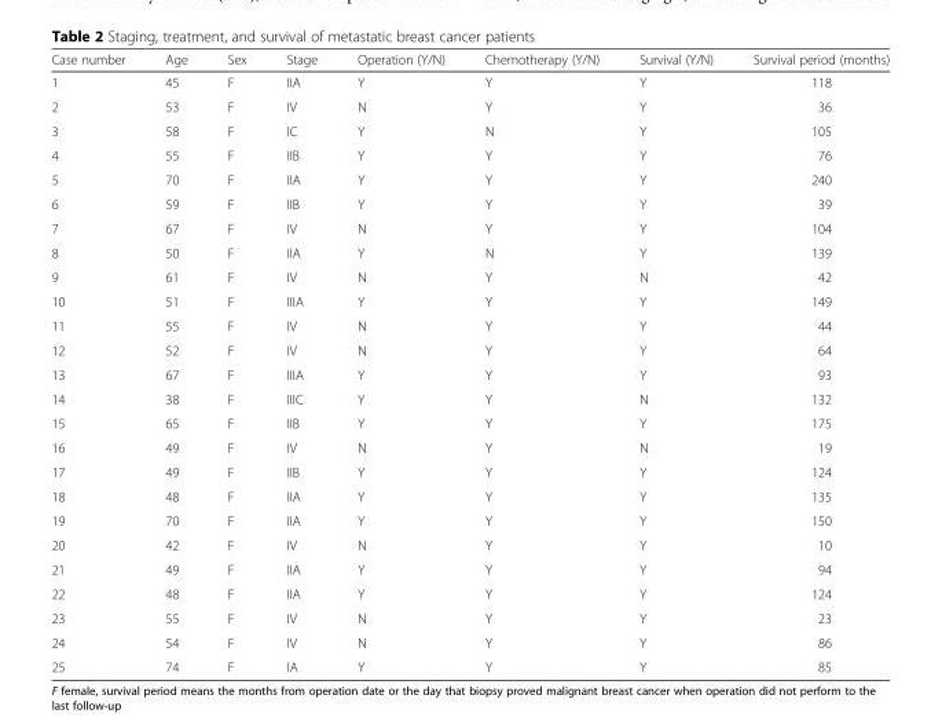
<table><thead><tr><td>Case number</td><td>Age</td><td>Sex</td><td>Stage</td><td>Operation (Y/N)</td><td>Chemotherapy (Y/N)</td><td>Survival (Y/N)</td><td>Survival period (months)</td></tr></thead><tbody><tr><td>1</td><td>45</td><td>F</td><td>IIA</td><td>Y</td><td>Y</td><td>Y</td><td>118</td></tr><tr><td>2</td><td>53</td><td>F</td><td>IV</td><td>N</td><td>Y</td><td>Y</td><td>36</td></tr><tr><td>3</td><td>58</td><td>F</td><td>IC</td><td>Y</td><td>N</td><td>Y</td><td>105</td></tr><tr><td>4</td><td>55</td><td>F</td><td>IIB</td><td>Y</td><td>Y</td><td>Y</td><td>76</td></tr><tr><td>5</td><td>70</td><td>F</td><td>IIA</td><td>Y</td><td>Y</td><td>Y</td><td>240</td></tr><tr><td>6</td><td>59</td><td>F</td><td>IIB</td><td>Y</td><td>Y</td><td>Y</td><td>39</td></tr><tr><td>7</td><td>67</td><td>F</td><td>IV</td><td>N</td><td>Y</td><td>Y</td><td>104</td></tr><tr><td>8</td><td>50</td><td>F</td><td>IIA</td><td>Y</td><td>N</td><td>Y</td><td>139</td></tr><tr><td>9</td><td>61</td><td>F</td><td>IV</td><td>N</td><td>Y</td><td>N</td><td>42</td></tr><tr><td>10</td><td>51</td><td>F</td><td>IIIA</td><td>Y</td><td>Y</td><td>Y</td><td>149</td></tr><tr><td>11</td><td>55</td><td>F</td><td>IV</td><td>N</td><td>Y</td><td>Y</td><td>44</td></tr><tr><td>12</td><td>52</td><td>F</td><td>IV</td><td>N</td><td>Y</td><td>Y</td><td>64</td></tr><tr><td>13</td><td>67</td><td>F</td><td>IIIA</td><td>Y</td><td>Y</td><td>Y</td><td>93</td></tr><tr><td>14</td><td>38</td><td>F</td><td>IIIC</td><td>Y</td><td>Y</td><td>N</td><td>132</td></tr><tr><td>15</td><td>65</td><td>F</td><td>IIB</td><td>Y</td><td>Y</td><td>Y</td><td>175</td></tr><tr><td>16</td><td>49</td><td>F</td><td>IV</td><td>N</td><td>Y</td><td>N</td><td>19</td></tr><tr><td>17</td><td>49</td><td>F</td><td>IIB</td><td>Y</td><td>Y</td><td>Y</td><td>124</td></tr><tr><td>18</td><td>48</td><td>F</td><td>IIA</td><td>Y</td><td>Y</td><td>Y</td><td>135</td></tr><tr><td>19</td><td>70</td><td>F</td><td>IIA</td><td>Y</td><td>Y</td><td>Y</td><td>150</td></tr><tr><td>20</td><td>42</td><td>F</td><td>IV</td><td>N</td><td>Y</td><td>Y</td><td>10</td></tr><tr><td>21</td><td>49</td><td>F</td><td>IIA</td><td>Y</td><td>Y</td><td>Y</td><td>94</td></tr><tr><td>22</td><td>48</td><td>F</td><td>IIA</td><td>Y</td><td>Y</td><td>Y</td><td>124</td></tr><tr><td>23</td><td>55</td><td>F</td><td>IV</td><td>N</td><td>Y</td><td>Y</td><td>23</td></tr><tr><td>24</td><td>54</td><td>F</td><td>IV</td><td>N</td><td>Y</td><td>Y</td><td>86</td></tr><tr><td>25</td><td>74</td><td>F</td><td>IA</td><td>Y</td><td>Y</td><td>Y</td><td>85</td></tr></tbody></table>